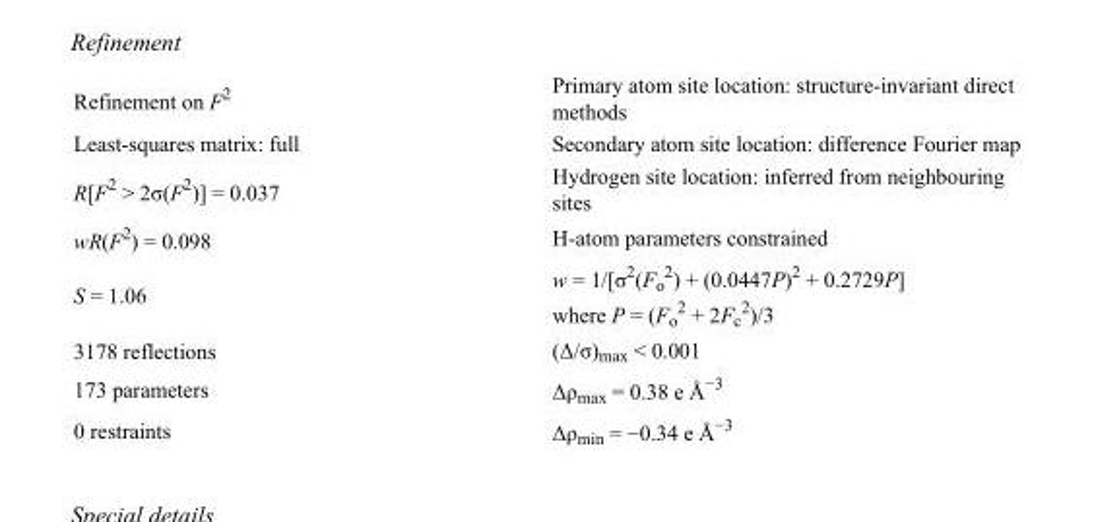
<table><tbody><tr><td>Refinement on F<sup>2</sup></td><td>Primary atom site location: structure-invariant direct methods</td></tr><tr><td>Least-squares matrix: full</td><td>Secondary atom site location: difference Fourier map</td></tr><tr><td>R[F<sup>2</sup> &gt; 2σ(F<sup>2</sup>)] = 0.037</td><td>Hydrogen site location: inferred from neighbouring sites</td></tr><tr><td>wR(F<sup>2</sup>) = 0.098</td><td>H-atom parameters constrained</td></tr><tr><td>S = 1.06</td><td>w = 1/[σ<sup>2</sup>(F<sub>o</sub> <sup>2</sup>) + (0.0447P)<sup>2</sup> + 0.2729P] where P = (F<sub>o</sub> <sup>2</sup> + 2F<sub>c</sub> <sup>2</sup>)/3</td></tr><tr><td>3178 reflections</td><td>(Δ/σ)<sub>max</sub> &lt; 0.001</td></tr><tr><td>173 parameters</td><td>Δρ<sub>max</sub> = 0.38 e Å<sup>−3</sup></td></tr><tr><td>0 restraints</td><td>Δρ<sub>min</sub> = −0.34 e Å<sup>−3</sup></td></tr></tbody></table>